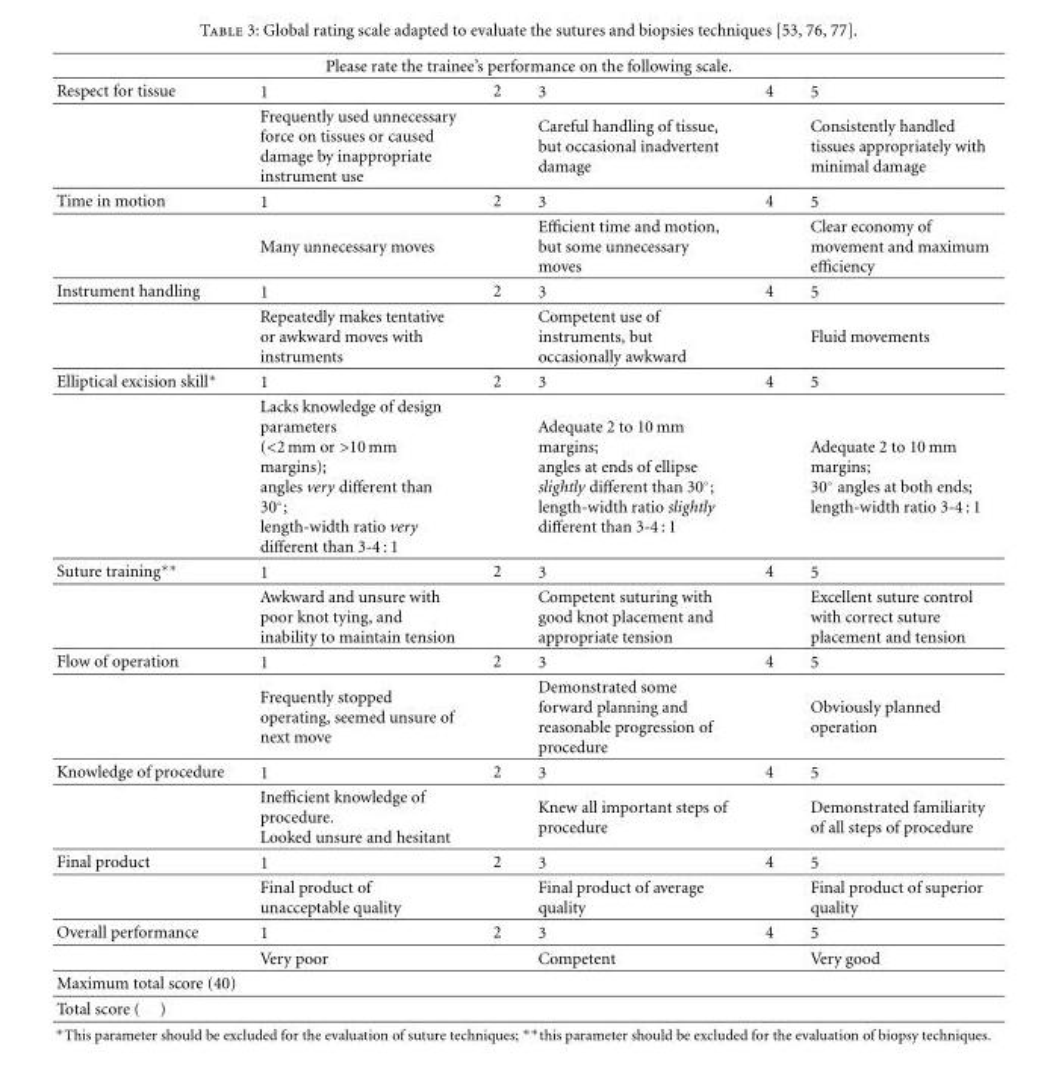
<table><thead><tr><td colspan="6">Please rate the trainee’s performance on the following scale.</td></tr><tr><td>Respect for tissue</td><td>1</td><td>2</td><td>3</td><td>4</td><td>5</td></tr></thead><tbody><tr><td></td><td>Frequently used unnecessary force on tissues or caused damage by inappropriate instrument use</td><td></td><td>Careful handling of tissue, but occasional inadvertent damage</td><td></td><td>Consistently handled tissues appropriately with minimal damage</td></tr><tr><td rowspan="2">Time in motion</td><td>1</td><td>2</td><td>3</td><td>4</td><td>5</td></tr><tr><td>Many unnecessary moves</td><td></td><td>Efficient time and motion, but some unnecessary moves</td><td></td><td>Clear economy of movement and maximum efficiency</td></tr><tr><td rowspan="2">Instrument handling</td><td>1</td><td>2</td><td>3</td><td>4</td><td>5</td></tr><tr><td>Repeatedly makes tentative or awkward moves with instruments</td><td></td><td>Competent use of instruments, but occasionally awkward</td><td></td><td>Fluid movements</td></tr><tr><td rowspan="2">Elliptical excision skill∗</td><td>1</td><td>2</td><td>3</td><td>4</td><td>5</td></tr><tr><td>Lacks knowledge of design parameters (&lt;2 mm or &gt;10 mm margins); angles very different than 30◦; length-width ratio very different than 3-4 : 1</td><td></td><td>Adequate 2 to 10 mm margins; angles at ends of ellipse slightly different than 30◦; length-width ratio slightly different than 3-4 : 1</td><td></td><td>Adequate 2 to 10 mm margins; 30◦ angles at both ends; length-width ratio 3-4 : 1</td></tr><tr><td rowspan="2">Suture training∗∗</td><td>1</td><td>2</td><td>3</td><td>4</td><td>5</td></tr><tr><td>Awkward and unsure with poor knot tying, and inability to maintain tension</td><td></td><td>Competent suturing with good knot placement and appropriate tension</td><td></td><td>Excellent suture control with correct suture placement and tension</td></tr><tr><td rowspan="2">Flow of operation</td><td>1</td><td>2</td><td>3</td><td>4</td><td>5</td></tr><tr><td>Frequently stopped operating, seemed unsure of next move</td><td></td><td>Demonstrated some forward planning and reasonable progression of procedure</td><td></td><td>Obviously planned operation</td></tr><tr><td rowspan="2">Knowledge of procedure</td><td>1</td><td>2</td><td>3</td><td>4</td><td>5</td></tr><tr><td>Inefficient knowledge of procedure. Looked unsure and hesitant</td><td></td><td>Knew all important steps of procedure</td><td></td><td>Demonstrated familiarity of all steps of procedure</td></tr><tr><td rowspan="2">Final product</td><td>1</td><td>2</td><td>3</td><td>4</td><td>5</td></tr><tr><td>Final product of unacceptable quality</td><td></td><td>Final product of average quality</td><td></td><td>Final product of superior quality</td></tr><tr><td rowspan="2">Overall performance</td><td>1</td><td>2</td><td>3</td><td>4</td><td>5</td></tr><tr><td>Very poor</td><td></td><td>Competent</td><td></td><td>Very good</td></tr><tr><td colspan="6">Maximum total score (40)</td></tr><tr><td>Total score ( )</td><td></td><td></td><td></td><td></td><td></td></tr></tbody></table>